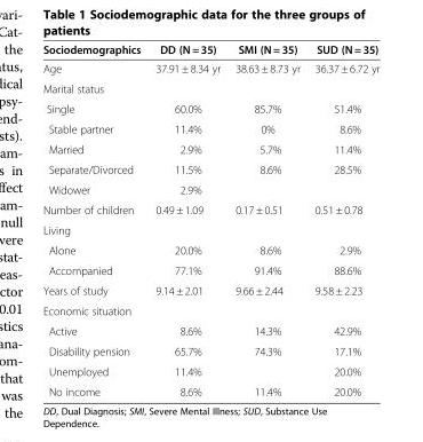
<table><thead><tr><td>Sociodemographics</td><td>DD (N = 35)</td><td>SMI (N = 35)</td><td>SUD (N = 35)</td></tr></thead><tbody><tr><td>Age</td><td>37.91 ± 8.34 yr</td><td>38.63 ± 8.73 yr</td><td>36.37 ± 6.72 yr</td></tr><tr><td colspan="4">Marital status</td></tr><tr><td>Single</td><td>60.0%</td><td>85.7%</td><td>51.4%</td></tr><tr><td>Stable partner</td><td>11.4%</td><td>0%</td><td>8.6%</td></tr><tr><td>Married</td><td>2.9%</td><td>5.7%</td><td>11.4%</td></tr><tr><td>Separate/Divorced</td><td>11.5%</td><td>8.6%</td><td>28.5%</td></tr><tr><td>Widower</td><td>2.9%</td><td></td><td></td></tr><tr><td>Number of children</td><td>0.49 ± 1.09</td><td>0.17 ± 0.51</td><td>0.51 ± 0.78</td></tr><tr><td colspan="4">Living</td></tr><tr><td>Alone</td><td>20.0%</td><td>8.6%</td><td>2.9%</td></tr><tr><td>Accompanied</td><td>77.1%</td><td>91.4%</td><td>88.6%</td></tr><tr><td>Years of study</td><td>9.14 ± 2.01</td><td>9.66 ± 2.44</td><td>9.58 ± 2.23</td></tr><tr><td colspan="4">Economic situation</td></tr><tr><td>Active</td><td>8.6%</td><td>14.3%</td><td>42.9%</td></tr><tr><td>Disability pension</td><td>65.7%</td><td>74.3%</td><td>17.1%</td></tr><tr><td>Unemployed</td><td>11.4%</td><td></td><td>20.0%</td></tr><tr><td>No income</td><td>8.6%</td><td>11.4%</td><td>20.0%</td></tr></tbody></table>